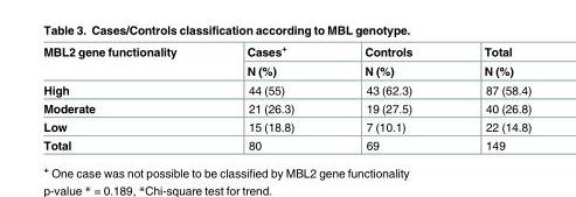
<table><thead><tr><td rowspan="2">MBL2 gene functionality</td><td rowspan="2">Cases<sup>+</sup> N (%)</td><td rowspan="2">Controls N (%)</td><td rowspan="2">Total N (%)</td></tr><tr></tr></thead><tbody><tr><td>High</td><td>44 (55)</td><td>43 (62.3)</td><td>87 (58.4)</td></tr><tr><td>Moderate</td><td>21 (26.3)</td><td>19 (27.5)</td><td>40 (26.8)</td></tr><tr><td>Low</td><td>15 (18.8)</td><td>7 (10.1)</td><td>22 (14.8)</td></tr><tr><td>Total</td><td>80</td><td>69</td><td>149</td></tr></tbody></table>